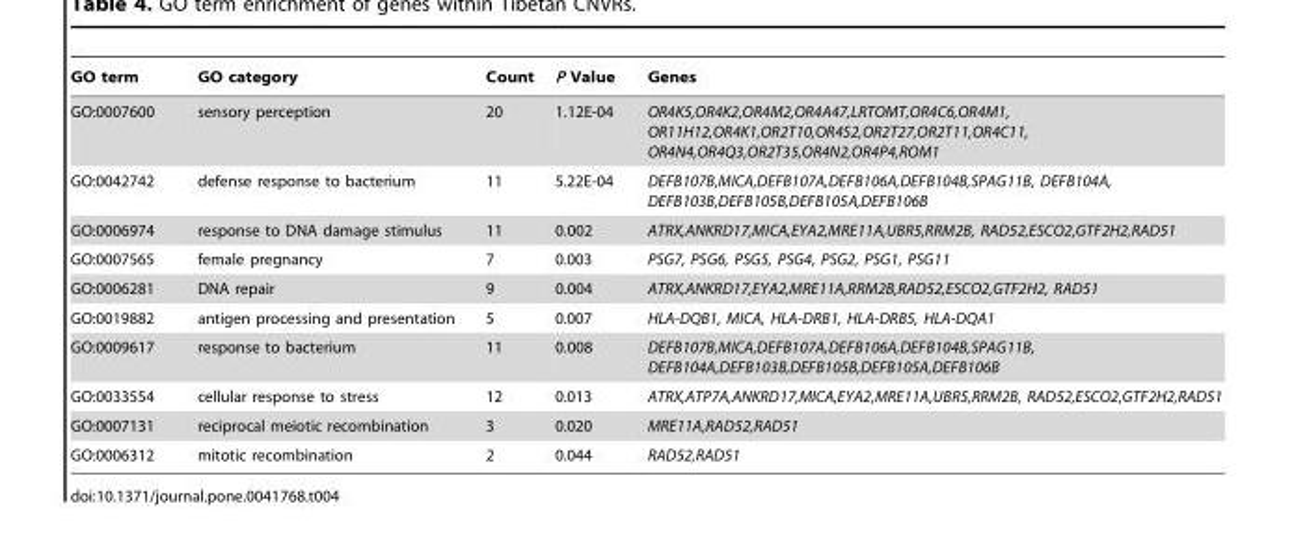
<table><thead><tr><td>GO term</td><td>GO category</td><td>Count</td><td>P Value</td><td>Genes</td></tr></thead><tbody><tr><td>GO:0007600</td><td>sensory perception</td><td>20</td><td>1.12E-04</td><td>OR4K5,OR4K2,OR4M2,OR4A47,LRTOMT,OR4C6,OR4M1, OR11H12,OR4K1,OR2T10,OR4S2,OR2T27,OR2T11,OR4C11, OR4N4,OR4Q3,OR2T35,OR4N2,OR4P4,ROM1</td></tr><tr><td>GO:0042742</td><td>defense response to bacterium</td><td>11</td><td>5.22E-04</td><td>DEFB107B,MICA,DEFB107A,DEFB106A,DEFB104B,SPAG11B, DEFB104A, DEFB103B,DEFB105B,DEFB105A,DEFB106B</td></tr><tr><td>GO:0006974</td><td>response to DNA damage stimulus</td><td>11</td><td>0.002</td><td>ATRX,ANKRD17,MICA,EYA2,MRE11A,UBR5,RRM2B, RAD52,ESCO2,GTF2H2,RAD51</td></tr><tr><td>GO:0007565</td><td>female pregnancy</td><td>7</td><td>0.003</td><td>PSG7, PSG6, PSG5, PSG4, PSG2, PSG1, PSG11</td></tr><tr><td>GO:0006281</td><td>DNA repair</td><td>9</td><td>0.004</td><td>ATRX,ANKRD17,EYA2,MRE11A,RRM2B,RAD52,ESCO2,GTF2H2, RAD51</td></tr><tr><td>GO:0019882</td><td>antigen processing and presentation</td><td>5</td><td>0.007</td><td>HLA-DQB1, MICA, HLA-DRB1, HLA-DRB5, HLA-DQA1</td></tr><tr><td>GO:0009617</td><td>response to bacterium</td><td>11</td><td>0.008</td><td>DEFB107B,MICA,DEFB107A,DEFB106A,DEFB104B,SPAG11B, DEFB104A,DEFB103B,DEFB105B,DEFB105A,DEFB106B</td></tr><tr><td>GO:0033554</td><td>cellular response to stress</td><td>12</td><td>0.013</td><td>ATRX,ATP7A,ANKRD17,MICA,EYA2,MRE11A,UBR5,RRM2B, RAD52,ESCO2,GTF2H2,RAD51</td></tr><tr><td>GO:0007131</td><td>reciprocal meiotic recombination</td><td>3</td><td>0.020</td><td>MRE11A,RAD52,RAD51</td></tr><tr><td>GO:0006312</td><td>mitotic recombination</td><td>2</td><td>0.044</td><td>RAD52,RAD51</td></tr></tbody></table>